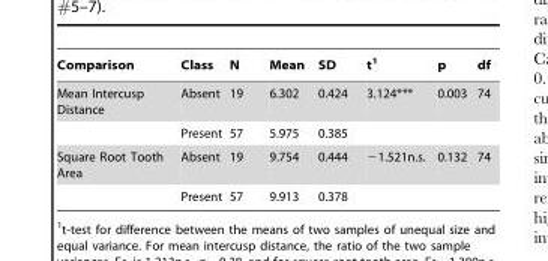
<table><thead><tr><td>Comparison</td><td>Class</td><td>N</td><td>Mean</td><td>SD</td><td>t<sup>1</sup></td><td>p</td><td>df</td></tr></thead><tbody><tr><td rowspan="2">Mean Intercusp Distance</td><td>Absent</td><td>19</td><td>6.302</td><td>0.424</td><td>3.124***</td><td>0.003</td><td>74</td></tr><tr><td>Present</td><td>57</td><td>5.975</td><td>0.385</td><td></td><td></td><td></td></tr><tr><td rowspan="2">Square Root Tooth Area</td><td>Absent</td><td>19</td><td>9.754</td><td>0.444</td><td>−1.521n.s.</td><td>0.132</td><td>74</td></tr><tr><td>Present</td><td>57</td><td>9.913</td><td>0.378</td><td></td><td></td><td></td></tr></tbody></table>